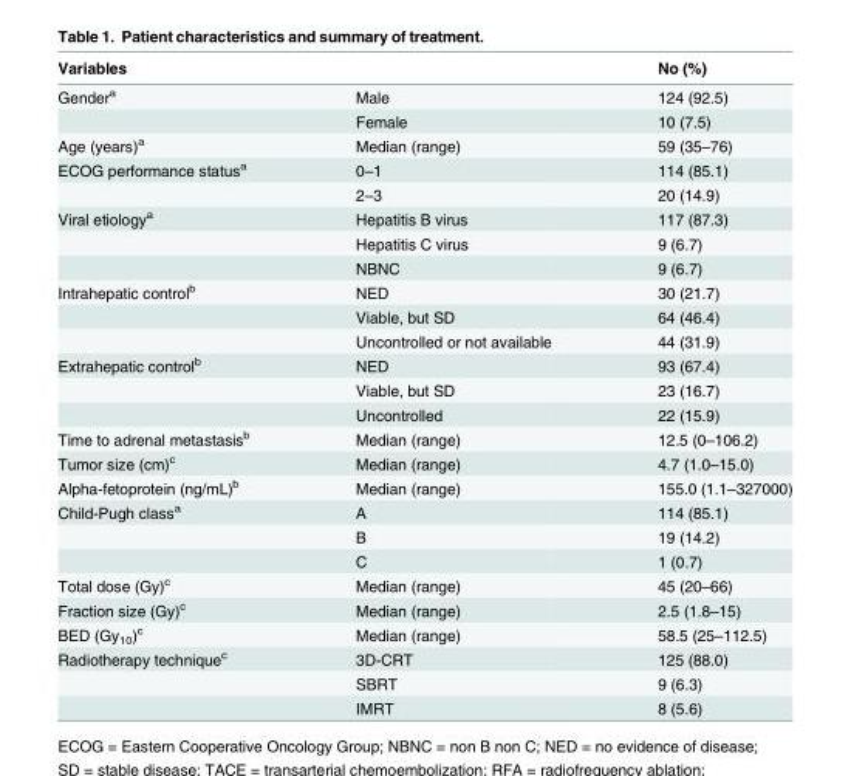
<table><thead><tr><td>Variables</td><td></td><td>No (%)</td></tr></thead><tbody><tr><td rowspan="2">Gender<sup>a</sup></td><td>Male</td><td>124 (92.5)</td></tr><tr><td>Female</td><td>10 (7.5)</td></tr><tr><td>Age (years)<sup>a</sup></td><td>Median (range)</td><td>59 (35–76)</td></tr><tr><td rowspan="2">ECOG performance status<sup>a</sup></td><td>0–1</td><td>114 (85.1)</td></tr><tr><td>2–3</td><td>20 (14.9)</td></tr><tr><td rowspan="3">Viral etiology<sup>a</sup></td><td>Hepatitis B virus</td><td>117 (87.3)</td></tr><tr><td>Hepatitis C virus</td><td>9 (6.7)</td></tr><tr><td>NBNC</td><td>9 (6.7)</td></tr><tr><td rowspan="3">Intrahepatic control<sup>b</sup></td><td>NED</td><td>30 (21.7)</td></tr><tr><td>Viable, but SD</td><td>64 (46.4)</td></tr><tr><td>Uncontrolled or not available</td><td>44 (31.9)</td></tr><tr><td rowspan="3">Extrahepatic control<sup>b</sup></td><td>NED</td><td>93 (67.4)</td></tr><tr><td>Viable, but SD</td><td>23 (16.7)</td></tr><tr><td>Uncontrolled</td><td>22 (15.9)</td></tr><tr><td>Time to adrenal metastasis<sup>b</sup></td><td>Median (range)</td><td>12.5 (0–106.2)</td></tr><tr><td>Tumor size (cm)<sup>c</sup></td><td>Median (range)</td><td>4.7 (1.0–15.0)</td></tr><tr><td>Alpha-fetoprotein (ng/mL)<sup>b</sup></td><td>Median (range)</td><td>155.0 (1.1–327000)</td></tr><tr><td rowspan="3">Child-Pugh class<sup>a</sup></td><td>A</td><td>114 (85.1)</td></tr><tr><td>B</td><td>19 (14.2)</td></tr><tr><td>C</td><td>1 (0.7)</td></tr><tr><td>Total dose (Gy)<sup>c</sup></td><td>Median (range)</td><td>45 (20–66)</td></tr><tr><td>Fraction size (Gy)<sup>c</sup></td><td>Median (range)</td><td>2.5 (1.8–15)</td></tr><tr><td>BED (Gy<sub>10</sub>)<sup>c</sup></td><td>Median (range)</td><td>58.5 (25–112.5)</td></tr><tr><td rowspan="3">Radiotherapy technique<sup>c</sup></td><td>3D-CRT</td><td>125 (88.0)</td></tr><tr><td>SBRT</td><td>9 (6.3)</td></tr><tr><td>IMRT</td><td>8 (5.6)</td></tr></tbody></table>